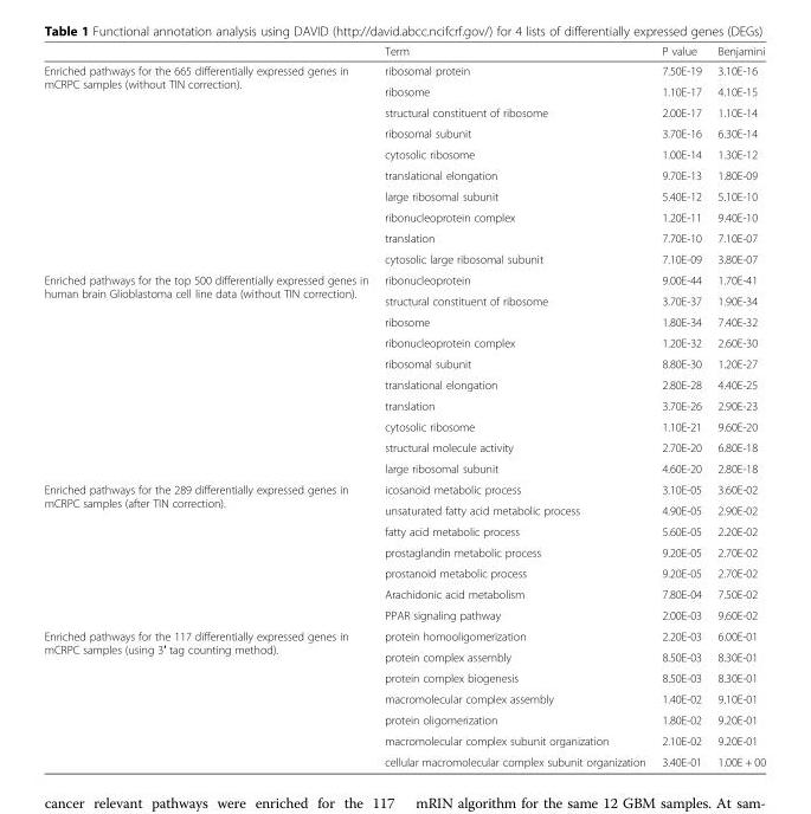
<table><thead><tr><td></td><td>Term</td><td>P value</td><td>Benjamini</td></tr></thead><tbody><tr><td rowspan="10">Enriched pathways for the 665 differentially expressed genes in mCRPC samples (without TIN correction).</td><td>ribosomal protein</td><td>7.50E-19</td><td>3.10E-16</td></tr><tr><td>ribosome</td><td>1.10E-17</td><td>4.10E-15</td></tr><tr><td>structural constituent of ribosome</td><td>2.00E-17</td><td>1.10E-14</td></tr><tr><td>ribosomal subunit</td><td>3.70E-16</td><td>6.30E-14</td></tr><tr><td>cytosolic ribosome</td><td>1.00E-14</td><td>1.30E-12</td></tr><tr><td>translational elongation</td><td>9.70E-13</td><td>1.80E-09</td></tr><tr><td>large ribosomal subunit</td><td>5.40E-12</td><td>5.10E-10</td></tr><tr><td>ribonucleoprotein complex</td><td>1.20E-11</td><td>9.40E-10</td></tr><tr><td>translation</td><td>7.70E-10</td><td>7.10E-07</td></tr><tr><td>cytosolic large ribosomal subunit</td><td>7.10E-09</td><td>3.80E-07</td></tr><tr><td rowspan="10">Enriched pathways for the top 500 differentially expressed genes in human brain Glioblastoma cell line data (without TIN correction).</td><td>ribonucleoprotein</td><td>9.00E-44</td><td>1.70E-41</td></tr><tr><td>structural constituent of ribosome</td><td>3.70E-37</td><td>1.90E-34</td></tr><tr><td>ribosome</td><td>1.80E-34</td><td>7.40E-32</td></tr><tr><td>ribonucleoprotein complex</td><td>1.20E-32</td><td>2.60E-30</td></tr><tr><td>ribosomal subunit</td><td>8.80E-30</td><td>1.20E-27</td></tr><tr><td>translational elongation</td><td>2.80E-28</td><td>4.40E-25</td></tr><tr><td>translation</td><td>3.70E-26</td><td>2.90E-23</td></tr><tr><td>cytosolic ribosome</td><td>1.10E-21</td><td>9.60E-20</td></tr><tr><td>structural molecule activity</td><td>2.70E-20</td><td>6.80E-18</td></tr><tr><td>large ribosomal subunit</td><td>4.60E-20</td><td>2.80E-18</td></tr><tr><td rowspan="7">Enriched pathways for the 289 differentially expressed genes in mCRPC samples (after TIN correction).</td><td>icosanoid metabolic process</td><td>3.10E-05</td><td>3.60E-02</td></tr><tr><td>unsaturated fatty acid metabolic process</td><td>4.90E-05</td><td>2.90E-02</td></tr><tr><td>fatty acid metabolic process</td><td>5.60E-05</td><td>2.20E-02</td></tr><tr><td>prostaglandin metabolic process</td><td>9.20E-05</td><td>2.70E-02</td></tr><tr><td>prostanoid metabolic process</td><td>9.20E-05</td><td>2.70E-02</td></tr><tr><td>Arachidonic acid metabolism</td><td>7.80E-04</td><td>7.50E-02</td></tr><tr><td>PPAR signaling pathway</td><td>2.00E-03</td><td>9.60E-02</td></tr><tr><td rowspan="7">Enriched pathways for the 117 differentially expressed genes in mCRPC samples (using 3′ tag counting method).</td><td>protein homooligomerization</td><td>2.20E-03</td><td>6.00E-01</td></tr><tr><td>protein complex assembly</td><td>8.50E-03</td><td>8.30E-01</td></tr><tr><td>protein complex biogenesis</td><td>8.50E-03</td><td>8.30E-01</td></tr><tr><td>macromolecular complex assembly</td><td>1.40E-02</td><td>9.10E-01</td></tr><tr><td>protein oligomerization</td><td>1.80E-02</td><td>9.20E-01</td></tr><tr><td>macromolecular complex subunit organization</td><td>2.10E-02</td><td>9.20E-01</td></tr><tr><td>cellular macromolecular complex subunit organization</td><td>3.40E-01</td><td>1.00E + 00</td></tr></tbody></table>